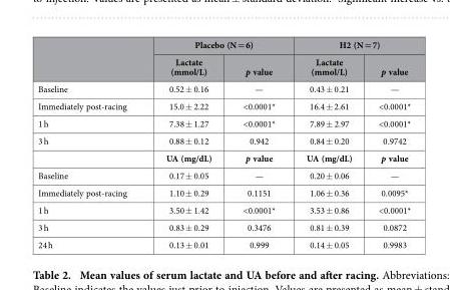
<table><thead><tr><td rowspan="2"></td><td colspan="2">Placebo (N = 6)</td><td colspan="2">H2 (N = 7)</td></tr><tr><td>Lactate (mmol/L)</td><td>p value</td><td>Lactate (mmol/L)</td><td>p value</td></tr></thead><tbody><tr><td>Baseline</td><td>0.52 ± 0.16</td><td>—</td><td>0.43 ± 0.21</td><td>—</td></tr><tr><td>Immediately post-racing</td><td>15.0 ± 2.22</td><td>&lt;0.0001*</td><td>16.4 ± 2.61</td><td>&lt;0.0001*</td></tr><tr><td>1 h</td><td>7.38 ± 1.27</td><td>&lt;0.0001*</td><td>7.89 ± 2.97</td><td>&lt;0.0001*</td></tr><tr><td rowspan="2">3 h</td><td>0.88 ± 0.12</td><td>0.942</td><td>0.84 ± 0.20</td><td>0.9742</td></tr><tr><td>UA (mg/dL)</td><td>p value</td><td>UA (mg/dL)</td><td>p value</td></tr><tr><td>Baseline</td><td>0.17 ± 0.05</td><td>—</td><td>0.20 ± 0.06</td><td>—</td></tr><tr><td>Immediately post-racing</td><td>1.10 ± 0.29</td><td>0.1151</td><td>1.06 ± 0.36</td><td>0.0095*</td></tr><tr><td>1 h</td><td>3.50 ± 1.42</td><td>&lt;0.0001*</td><td>3.53 ± 0.86</td><td>&lt;0.0001*</td></tr><tr><td>3 h</td><td>0.83 ± 0.29</td><td>0.3476</td><td>0.81 ± 0.39</td><td>0.0872</td></tr><tr><td>24 h</td><td>0.13 ± 0.01</td><td>0.999</td><td>0.14 ± 0.05</td><td>0.9983</td></tr></tbody></table>